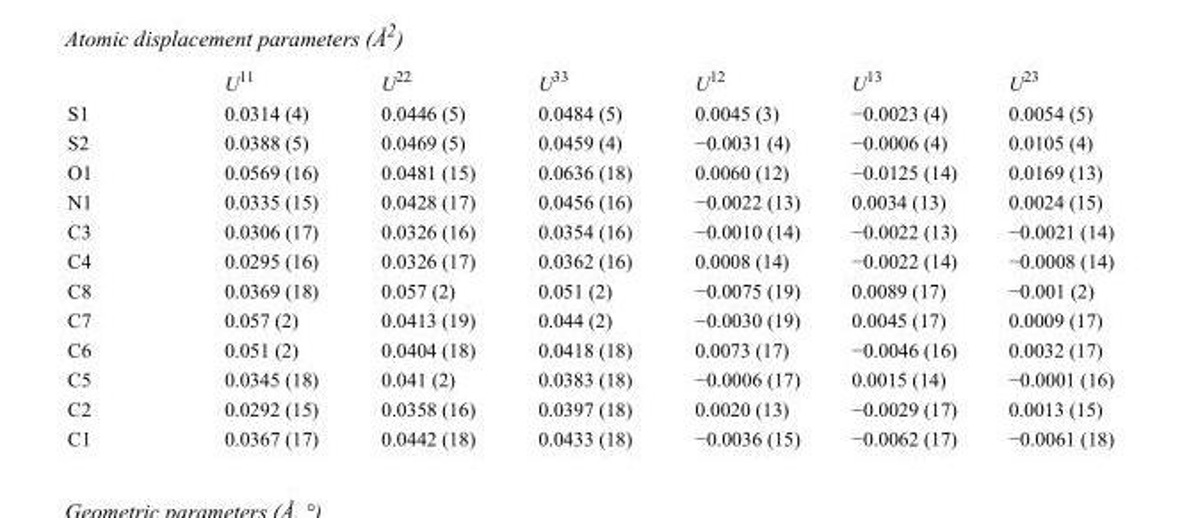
<table><thead><tr><td></td><td>U<sup>11</sup></td><td>U<sup>22</sup></td><td>U<sup>33</sup></td><td>U<sup>12</sup></td><td>U<sup>13</sup></td><td>U<sup>23</sup></td></tr></thead><tbody><tr><td>S1</td><td>0.0314 (4)</td><td>0.0446 (5)</td><td>0.0484 (5)</td><td>0.0045 (3)</td><td>−0.0023 (4)</td><td>0.0054 (5)</td></tr><tr><td>S2</td><td>0.0388 (5)</td><td>0.0469 (5)</td><td>0.0459 (4)</td><td>−0.0031 (4)</td><td>−0.0006 (4)</td><td>0.0105 (4)</td></tr><tr><td>O1</td><td>0.0569 (16)</td><td>0.0481 (15)</td><td>0.0636 (18)</td><td>0.0060 (12)</td><td>−0.0125 (14)</td><td>0.0169 (13)</td></tr><tr><td>N1</td><td>0.0335 (15)</td><td>0.0428 (17)</td><td>0.0456 (16)</td><td>−0.0022 (13)</td><td>0.0034 (13)</td><td>0.0024 (15)</td></tr><tr><td>C3</td><td>0.0306 (17)</td><td>0.0326 (16)</td><td>0.0354 (16)</td><td>−0.0010 (14)</td><td>−0.0022 (13)</td><td>−0.0021 (14)</td></tr><tr><td>C4</td><td>0.0295 (16)</td><td>0.0326 (17)</td><td>0.0362 (16)</td><td>0.0008 (14)</td><td>−0.0022 (14)</td><td>−0.0008 (14)</td></tr><tr><td>C8</td><td>0.0369 (18)</td><td>0.057 (2)</td><td>0.051 (2)</td><td>−0.0075 (19)</td><td>0.0089 (17)</td><td>−0.001 (2)</td></tr><tr><td>C7</td><td>0.057 (2)</td><td>0.0413 (19)</td><td>0.044 (2)</td><td>−0.0030 (19)</td><td>0.0045 (17)</td><td>0.0009 (17)</td></tr><tr><td>C6</td><td>0.051 (2)</td><td>0.0404 (18)</td><td>0.0418 (18)</td><td>0.0073 (17)</td><td>−0.0046 (16)</td><td>0.0032 (17)</td></tr><tr><td>C5</td><td>0.0345 (18)</td><td>0.041 (2)</td><td>0.0383 (18)</td><td>−0.0006 (17)</td><td>0.0015 (14)</td><td>−0.0001 (16)</td></tr><tr><td>C2</td><td>0.0292 (15)</td><td>0.0358 (16)</td><td>0.0397 (18)</td><td>0.0020 (13)</td><td>−0.0029 (17)</td><td>0.0013 (15)</td></tr><tr><td>C1</td><td>0.0367 (17)</td><td>0.0442 (18)</td><td>0.0433 (18)</td><td>−0.0036 (15)</td><td>−0.0062 (17)</td><td>−0.0061 (18)</td></tr></tbody></table>